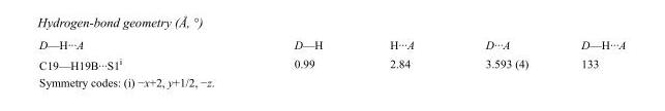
<table><tbody><tr><td>D—H···A</td><td>D—H</td><td>H···A</td><td>D···A</td><td>D—H···A</td></tr><tr><td>C19—H19B···S1<sup>i</sup></td><td>0.99</td><td>2.84</td><td>3.593 (4)</td><td>133</td></tr></tbody></table>